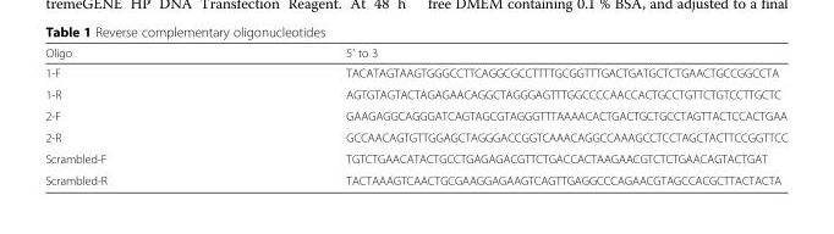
<table><thead><tr><td>Oligo</td><td>5’ to 3</td></tr></thead><tbody><tr><td>1-F</td><td>TACATAGTAAGTGGGCCTTCAGGCGCCTTTTGCGGTTTGACTGATGCTCTGAACTGCCGGCCTA</td></tr><tr><td>1-R</td><td>AGTGTAGTACTAGAGAACAGGCTAGGGAGTTTGGCCCCAACCACTGCCTGTTCTGTCCTTGCTC</td></tr><tr><td>2-F</td><td>GAAGAGGCAGGGATCAGTAGCGTAGGGTTTAAAACACTGACTGCTGCCTAGTTACTCCACTGAA</td></tr><tr><td>2-R</td><td>GCCAACAGTGTTGGAGCTAGGGACCGGTCAAACAGGCCAAAGCCTCCTAGCTACTTCCGGTTCC</td></tr><tr><td>Scrambled-F</td><td>TGTCTGAACATACTGCCTGAGAGACGTTCTGACCACTAAGAACGTCTCTGAACAGTACTGAT</td></tr><tr><td>Scrambled-R</td><td>TACTAAAGTCAACTGCGAAGGAGAAGTCAGTTGAGGCCCAGAACGTAGCCACGCTTACTACTA</td></tr></tbody></table>